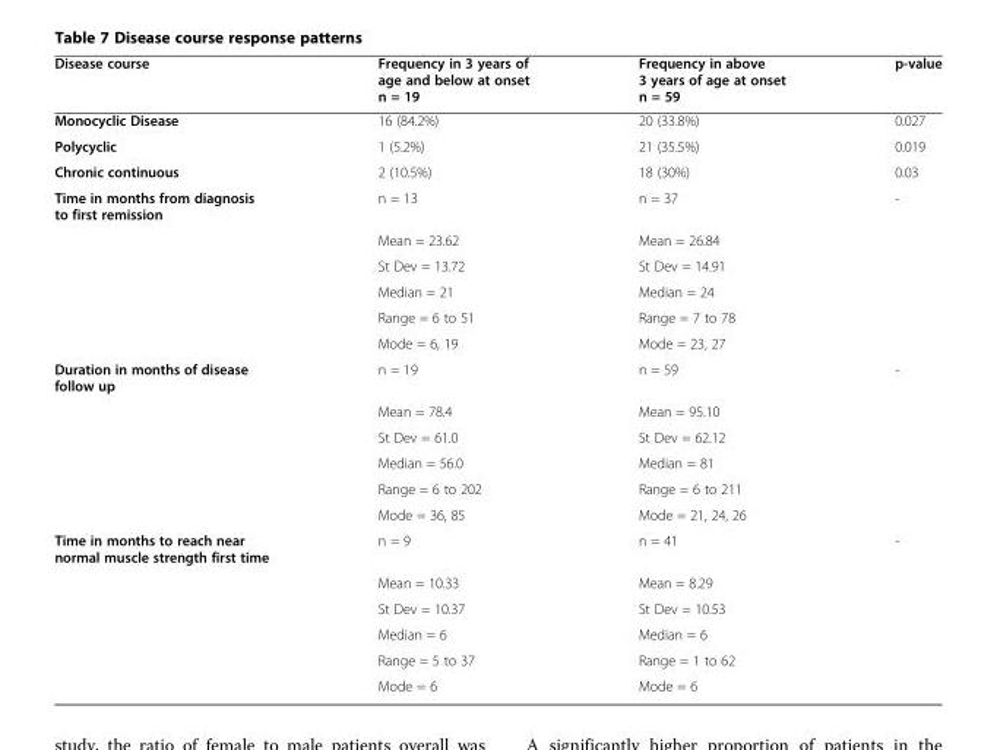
<table><thead><tr><td>Disease course</td><td>Frequency in 3 years of age and below at onset n = 19</td><td>Frequency in above 3 years of age at onset n = 59</td><td>p-value</td></tr></thead><tbody><tr><td>Monocyclic Disease</td><td>16 (84.2%)</td><td>20 (33.8%)</td><td>0.027</td></tr><tr><td>Polycyclic</td><td>1 (5.2%)</td><td>21 (35.5%)</td><td>0.019</td></tr><tr><td>Chronic continuous</td><td>2 (10.5%)</td><td>18 (30%)</td><td>0.03</td></tr><tr><td rowspan="6">Time in months from diagnosis to first remission</td><td>n = 13</td><td>n = 37</td><td>-</td></tr><tr><td>Mean = 23.62</td><td>Mean = 26.84</td><td></td></tr><tr><td>St Dev = 13.72</td><td>St Dev = 14.91</td><td></td></tr><tr><td>Median = 21</td><td>Median = 24</td><td></td></tr><tr><td>Range = 6 to 51</td><td>Range = 7 to 78</td><td></td></tr><tr><td>Mode = 6, 19</td><td>Mode = 23, 27</td><td></td></tr><tr><td rowspan="6">Duration in months of disease follow up</td><td>n = 19</td><td>n = 59</td><td>-</td></tr><tr><td>Mean = 78.4</td><td>Mean = 95.10</td><td></td></tr><tr><td>St Dev = 61.0</td><td>St Dev = 62.12</td><td></td></tr><tr><td>Median = 56.0</td><td>Median = 81</td><td></td></tr><tr><td>Range = 6 to 202</td><td>Range = 6 to 211</td><td></td></tr><tr><td>Mode = 36, 85</td><td>Mode = 21, 24, 26</td><td></td></tr><tr><td rowspan="6">Time in months to reach near normal muscle strength first time</td><td>n = 9</td><td>n = 41</td><td>-</td></tr><tr><td>Mean = 10.33</td><td>Mean = 8.29</td><td></td></tr><tr><td>St Dev = 10.37</td><td>St Dev = 10.53</td><td></td></tr><tr><td>Median = 6</td><td>Median = 6</td><td></td></tr><tr><td>Range = 5 to 37</td><td>Range = 1 to 62</td><td></td></tr><tr><td>Mode = 6</td><td>Mode = 6</td><td></td></tr></tbody></table>